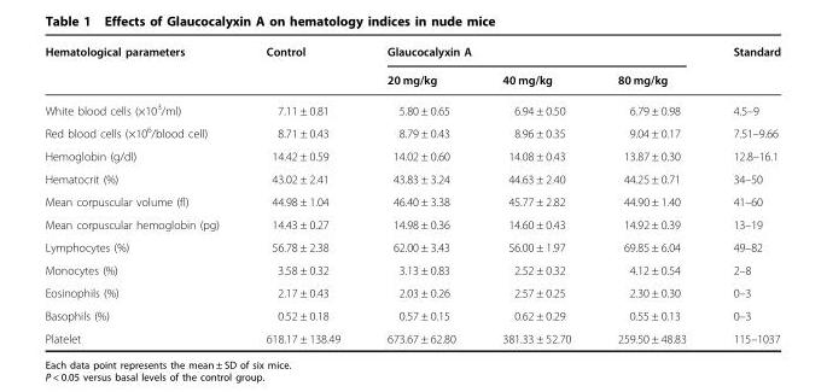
<table><thead><tr><td rowspan="2">Hematological parameters</td><td rowspan="2">Control</td><td colspan="3">Glaucocalyxin A</td><td rowspan="2">Standard</td></tr><tr><td>20 mg/kg</td><td>40 mg/kg</td><td>80 mg/kg</td></tr></thead><tbody><tr><td>White blood cells (×10<sup>3</sup>/ml)</td><td>7.11 ± 0.81</td><td>5.80 ± 0.65</td><td>6.94 ± 0.50</td><td>6.79 ± 0.98</td><td>4.5–9</td></tr><tr><td>Red blood cells (×10<sup>6</sup>/blood cell)</td><td>8.71 ± 0.43</td><td>8.79 ± 0.43</td><td>8.96 ± 0.35</td><td>9.04 ± 0.17</td><td>7.51–9.66</td></tr><tr><td>Hemoglobin (g/dl)</td><td>14.42 ± 0.59</td><td>14.02 ± 0.60</td><td>14.08 ± 0.43</td><td>13.87 ± 0.30</td><td>12.8–16.1</td></tr><tr><td>Hematocrit (%)</td><td>43.02 ± 2.41</td><td>43.83 ± 3.24</td><td>44.63 ± 2.40</td><td>44.25 ± 0.71</td><td>34–50</td></tr><tr><td>Mean corpuscular volume (fl)</td><td>44.98 ± 1.04</td><td>46.40 ± 3.38</td><td>45.77 ± 2.82</td><td>44.90 ± 1.40</td><td>41–60</td></tr><tr><td>Mean corpuscular hemoglobin (pg)</td><td>14.43 ± 0.27</td><td>14.98 ± 0.36</td><td>14.60 ± 0.43</td><td>14.92 ± 0.39</td><td>13–19</td></tr><tr><td>Lymphocytes (%)</td><td>56.78 ± 2.38</td><td>62.00 ± 3.43</td><td>56.00 ± 1.97</td><td>69.85 ± 6.04</td><td>49–82</td></tr><tr><td>Monocytes (%)</td><td>3.58 ± 0.32</td><td>3.13 ± 0.83</td><td>2.52 ± 0.32</td><td>4.12 ± 0.54</td><td>2–8</td></tr><tr><td>Eosinophils (%)</td><td>2.17 ± 0.43</td><td>2.03 ± 0.26</td><td>2.57 ± 0.25</td><td>2.30 ± 0.30</td><td>0–3</td></tr><tr><td>Basophils (%)</td><td>0.52 ± 0.18</td><td>0.57 ± 0.15</td><td>0.62 ± 0.29</td><td>0.55 ± 0.13</td><td>0–3</td></tr><tr><td>Platelet</td><td>618.17 ± 138.49</td><td>673.67 ± 62.80</td><td>381.33 ± 52.70</td><td>259.50 ± 48.83</td><td>115–1037</td></tr></tbody></table>